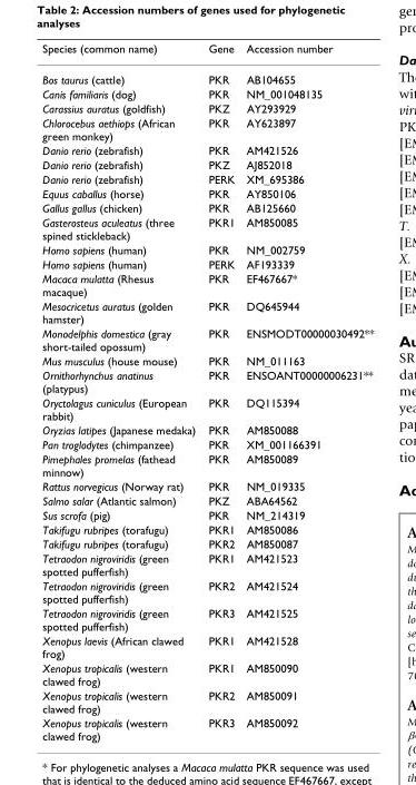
<table><thead><tr><td>Species (common name)</td><td>Gene</td><td>Accession number</td></tr></thead><tbody><tr><td>Bos taurus (cattle)</td><td>PKR</td><td>AB104655</td></tr><tr><td>Canis familiaris (dog)</td><td>PKR</td><td>NM_001048135</td></tr><tr><td>Carassius auratus (goldfish)</td><td>PKZ</td><td>AY293929</td></tr><tr><td>Chlorocebus aethiops (African green monkey)</td><td>PKR</td><td>AY623897</td></tr><tr><td>Danio rerio (zebrafish)</td><td>PKR</td><td>AM421526</td></tr><tr><td>Danio rerio (zebrafish)</td><td>PKZ</td><td>AJ852018</td></tr><tr><td>Danio rerio (zebrafish)</td><td>PERK</td><td>XM_695386</td></tr><tr><td>Equus caballus (horse)</td><td>PKR</td><td>AY850106</td></tr><tr><td>Gallus gallus (chicken)</td><td>PKR</td><td>AB125660</td></tr><tr><td>Gasterosteus aculeatus (three spined stickleback)</td><td>PKR1</td><td>AM850085</td></tr><tr><td>Homo sapiens (human)</td><td>PKR</td><td>NM_002759</td></tr><tr><td>Homo sapiens (human)</td><td>PERK</td><td>AF193339</td></tr><tr><td>Macaca mulatta (Rhesus macaque)</td><td>PKR</td><td>EF467667*</td></tr><tr><td>Mesocricetus auratus (golden hamster)</td><td>PKR</td><td>DQ645944</td></tr><tr><td>Monodelphis domestica (gray short-tailed opossum)</td><td>PKR</td><td>ENSMODT00000030492**</td></tr><tr><td>Mus musculus (house mouse)</td><td>PKR</td><td>NM_011163</td></tr><tr><td>Ornithorhynchus anatinus (platypus)</td><td>PKR</td><td>ENSOANT00000006231**</td></tr><tr><td>Oryctolagus cuniculus (European rabbit)</td><td>PKR</td><td>DQ115394</td></tr><tr><td>Oryzias latipes (Japanese medaka)</td><td>PKR</td><td>AM850088</td></tr><tr><td>Pan troglodytes (chimpanzee)</td><td>PKR</td><td>XM_001166391</td></tr><tr><td>Pimephales promelas (fathead minnow)</td><td>PKR</td><td>AM850089</td></tr><tr><td>Rattus norvegicus (Norway rat)</td><td>PKR</td><td>NM_019335</td></tr><tr><td>Salmo salar (Atlantic salmon)</td><td>PKZ</td><td>ABA64562</td></tr><tr><td>Sus scrofa (pig)</td><td>PKR</td><td>NM_214319</td></tr><tr><td>Takifugu rubripes (torafugu)</td><td>PKR1</td><td>AM850086</td></tr><tr><td>Takifugu rubripes (torafugu)</td><td>PKR2</td><td>AM850087</td></tr><tr><td>Tetraodon nigroviridis (green spotted pufferfish)</td><td>PKR1</td><td>AM421523</td></tr><tr><td>Tetraodon nigroviridis (green spotted pufferfish)</td><td>PKR2</td><td>AM421524</td></tr><tr><td>Tetraodon nigroviridis (green spotted pufferfish)</td><td>PKR3</td><td>AM421525</td></tr><tr><td>Xenopus laevis (African clawed frog)</td><td>PKR1</td><td>AM421528</td></tr><tr><td>Xenopus tropicalis (western clawed frog)</td><td>PKR1</td><td>AM850090</td></tr><tr><td>Xenopus tropicalis (western clawed frog)</td><td>PKR2</td><td>AM850091</td></tr><tr><td>Xenopus tropicalis (western clawed frog)</td><td>PKR3</td><td>AM850092</td></tr></tbody></table>